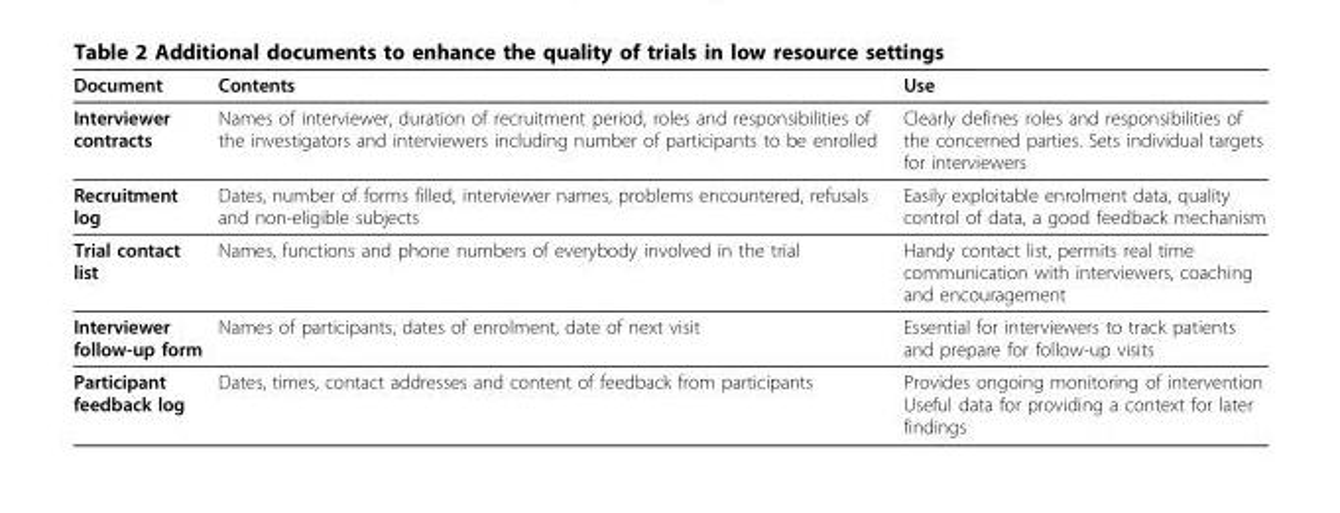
<table><thead><tr><td>Document</td><td>Contents</td><td>Use</td></tr></thead><tbody><tr><td>Interviewer contracts</td><td>Names of interviewer, duration of recruitment period, roles and responsibilities of the investigators and interviewers including number of participants to be enrolled</td><td>Clearly defines roles and responsibilities of the concerned parties. Sets individual targets for interviewers</td></tr><tr><td>Recruitment log</td><td>Dates, number of forms filled, interviewer names, problems encountered, refusals and non-eligible subjects</td><td>Easily exploitable enrolment data, quality control of data, a good feedback mechanism</td></tr><tr><td>Trial contact list</td><td>Names, functions and phone numbers of everybody involved in the trial</td><td>Handy contact list, permits real time communication with interviewers, coaching and encouragement</td></tr><tr><td>Interviewer follow-up form</td><td>Names of participants, dates of enrolment, date of next visit</td><td>Essential for interviewers to track patients and prepare for follow-up visits</td></tr><tr><td>Participant feedback log</td><td>Dates, times, contact addresses and content of feedback from participants</td><td>Provides ongoing monitoring of intervention Useful data for providing a context for later findings</td></tr></tbody></table>